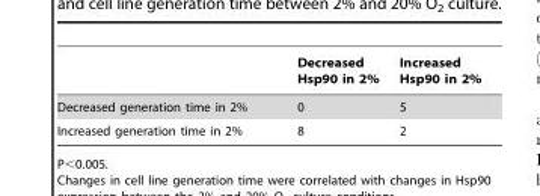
<table><thead><tr><td></td><td>Decreased Hsp90 in 2%</td><td>Increased Hsp90 in 2%</td></tr></thead><tbody><tr><td>Decreased generation time in 2%</td><td>0</td><td>5</td></tr><tr><td>Increased generation time in 2%</td><td>8</td><td>2</td></tr></tbody></table>